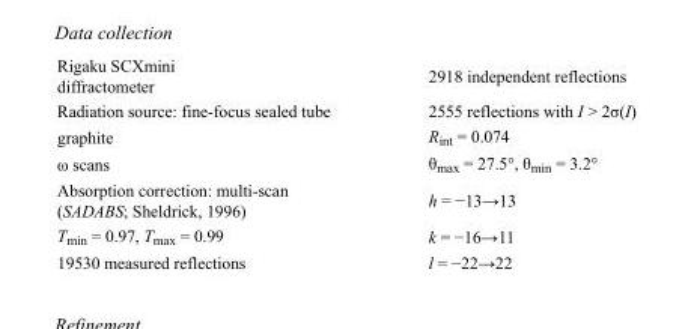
<table><tbody><tr><td>Rigaku SCXmini diffractometer</td><td>2918 independent reflections</td></tr><tr><td>Radiation source: fine-focus sealed tube</td><td>2555 reflections with I &gt; 2σ(I)</td></tr><tr><td>graphite</td><td>R<sub>int</sub> = 0.074</td></tr><tr><td>ω scans</td><td>θ<sub>max</sub> = 27.5°, θ<sub>min</sub> = 3.2°</td></tr><tr><td>Absorption correction: multi-scan (SADABS; Sheldrick, 1996)</td><td>h = −13→13</td></tr><tr><td>T<sub>min</sub> = 0.97, T<sub>max</sub> = 0.99</td><td>k = −16→11</td></tr><tr><td>19530 measured reflections</td><td>l = −22→22</td></tr></tbody></table>